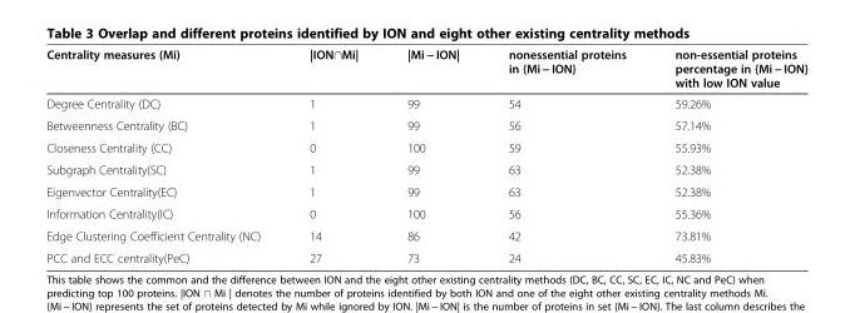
<table><thead><tr><td>Centrality measures (Mi)</td><td>|ION∩Mi|</td><td>|Mi − ION|</td><td>nonessential proteins in {Mi − ION}</td><td>non-essential proteins percentage in {Mi − ION} with low ION value</td></tr></thead><tbody><tr><td>Degree Centrality (DC)</td><td>1</td><td>99</td><td>54</td><td>59.26%</td></tr><tr><td>Betweenness Centrality (BC)</td><td>1</td><td>99</td><td>56</td><td>57.14%</td></tr><tr><td>Closeness Centrality (CC)</td><td>0</td><td>100</td><td>59</td><td>55.93%</td></tr><tr><td>Subgraph Centrality(SC)</td><td>1</td><td>99</td><td>63</td><td>52.38%</td></tr><tr><td>Eigenvector Centrality(EC)</td><td>1</td><td>99</td><td>63</td><td>52.38%</td></tr><tr><td>Information Centrality(IC)</td><td>0</td><td>100</td><td>56</td><td>55.36%</td></tr><tr><td>Edge Clustering Coefficient Centrality (NC)</td><td>14</td><td>86</td><td>42</td><td>73.81%</td></tr><tr><td>PCC and ECC centrality(PeC)</td><td>27</td><td>73</td><td>24</td><td>45.83%</td></tr></tbody></table>